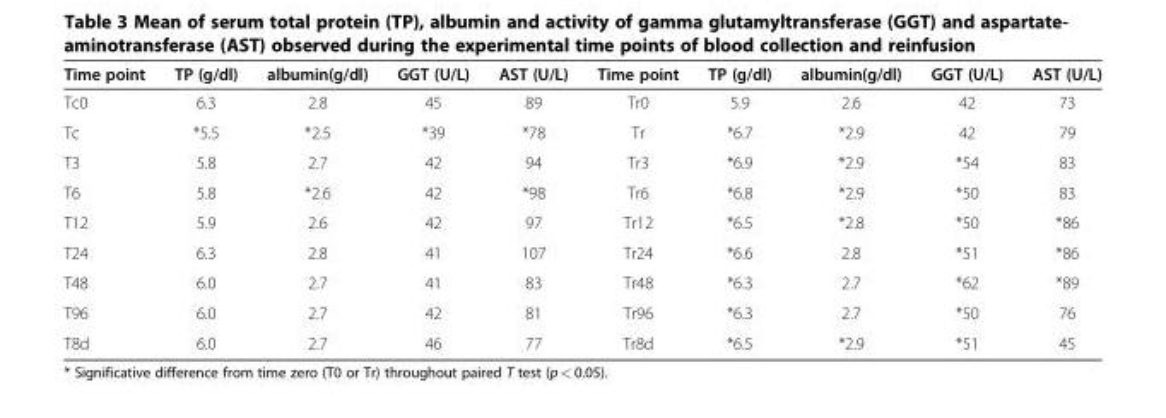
<table><thead><tr><td>Time point</td><td>TP (g/dl)</td><td>albumin(g/dl)</td><td>GGT (U/L)</td><td>AST (U/L)</td><td>Time point</td><td>TP (g/dl)</td><td>albumin(g/dl)</td><td>GGT (U/L)</td><td>AST (U/L)</td></tr></thead><tbody><tr><td>Tc0</td><td>6.3</td><td>2.8</td><td>45</td><td>89</td><td>Tr0</td><td>5.9</td><td>2.6</td><td>42</td><td>73</td></tr><tr><td>Tc</td><td>*5.5</td><td>*2.5</td><td>*39</td><td>*78</td><td>Tr</td><td>*6.7</td><td>*2.9</td><td>42</td><td>79</td></tr><tr><td>T3</td><td>5.8</td><td>2.7</td><td>42</td><td>94</td><td>Tr3</td><td>*6.9</td><td>*2.9</td><td>*54</td><td>83</td></tr><tr><td>T6</td><td>5.8</td><td>*2.6</td><td>42</td><td>*98</td><td>Tr6</td><td>*6.8</td><td>*2.9</td><td>*50</td><td>83</td></tr><tr><td>T12</td><td>5.9</td><td>2.6</td><td>42</td><td>97</td><td>Tr12</td><td>*6.5</td><td>*2.8</td><td>*50</td><td>*86</td></tr><tr><td>T24</td><td>6.3</td><td>2.8</td><td>41</td><td>107</td><td>Tr24</td><td>*6.6</td><td>2.8</td><td>*51</td><td>*86</td></tr><tr><td>T48</td><td>6.0</td><td>2.7</td><td>41</td><td>83</td><td>Tr48</td><td>*6.3</td><td>2.7</td><td>*62</td><td>*89</td></tr><tr><td>T96</td><td>6.0</td><td>2.7</td><td>42</td><td>81</td><td>Tr96</td><td>*6.3</td><td>2.7</td><td>*50</td><td>76</td></tr><tr><td>T8d</td><td>6.0</td><td>2.7</td><td>46</td><td>77</td><td>Tr8d</td><td>*6.5</td><td>*2.9</td><td>*51</td><td>45</td></tr></tbody></table>